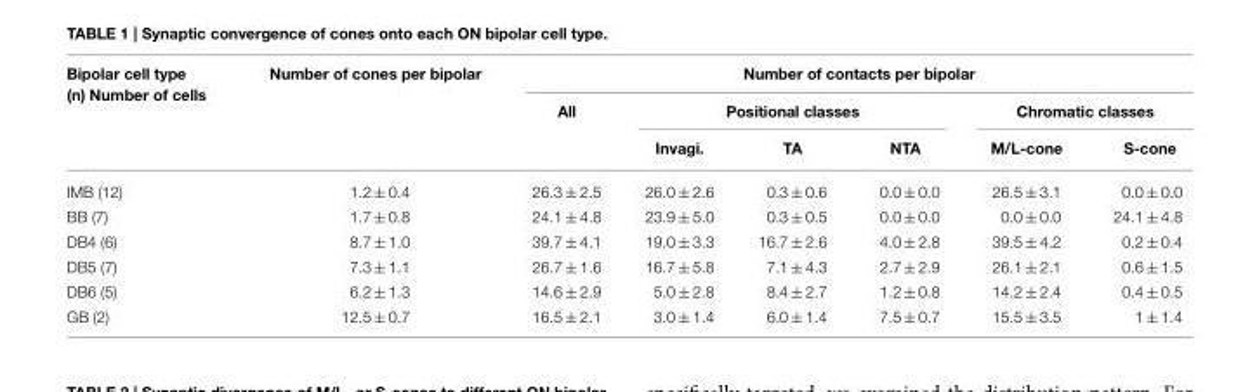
<table><thead><tr><td rowspan="3">Bipolar cell type (n) Number of cells</td><td rowspan="3">Number of cones per bipolar</td><td colspan="6">Number of contacts per bipolar</td></tr><tr><td rowspan="2">All</td><td colspan="3">Positional classes</td><td colspan="2">Chromatic classes</td></tr><tr><td>Invagi.</td><td>TA</td><td>NTA</td><td>M/L-cone</td><td>S-cone</td></tr></thead><tbody><tr><td>IMB (12)</td><td>1.2 ± 0.4</td><td>26.3 ± 2.5</td><td>26.0 ± 2.6</td><td>0.3 ± 0.6</td><td>0.0 ± 0.0</td><td>26.5 ± 3.1</td><td>0.0 ± 0.0</td></tr><tr><td>BB (7)</td><td>1.7 ± 0.8</td><td>24.1 ± 4.8</td><td>23.9 ± 5.0</td><td>0.3 ± 0.5</td><td>0.0 ± 0.0</td><td>0.0 ± 0.0</td><td>24.1 ± 4.8</td></tr><tr><td>DB4 (6)</td><td>8.7 ± 1.0</td><td>39.7 ± 4.1</td><td>19.0 ± 3.3</td><td>16.7 ± 2.6</td><td>4.0 ± 2.8</td><td>39.5 ± 4.2</td><td>0.2 ± 0.4</td></tr><tr><td>DB5 (7)</td><td>7.3 ± 1.1</td><td>26.7 ± 1.6</td><td>16.7 ± 5.8</td><td>7.1 ± 4.3</td><td>2.7 ± 2.9</td><td>26.1 ± 2.1</td><td>0.6 ± 1.5</td></tr><tr><td>DB6 (5)</td><td>6.2 ± 1.3</td><td>14.6 ± 2.9</td><td>5.0 ± 2.8</td><td>8.4 ± 2.7</td><td>1.2 ± 0.8</td><td>14.2 ± 2.4</td><td>0.4 ± 0.5</td></tr><tr><td>GB (2)</td><td>12.5 ± 0.7</td><td>16.5 ± 2.1</td><td>3.0 ± 1.4</td><td>6.0 ± 1.4</td><td>7.5 ± 0.7</td><td>15.5 ± 3.5</td><td>1 ± 1.4</td></tr></tbody></table>